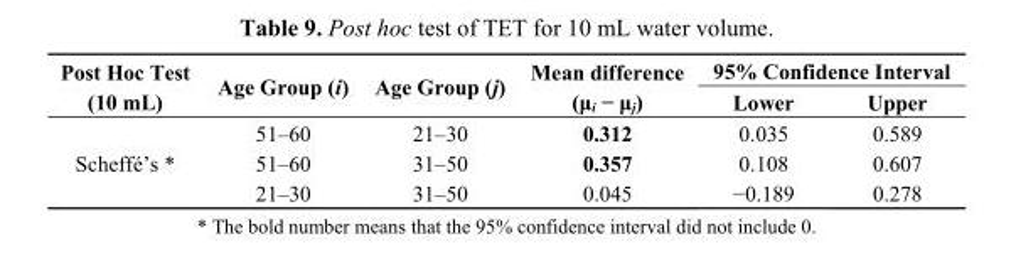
<table><thead><tr><td rowspan="2">Post Hoc Test (10 mL)</td><td rowspan="2">Age Group (i)</td><td rowspan="2">Age Group (j)</td><td rowspan="2">Mean difference (μ<sub>i</sub> − μ<sub>j</sub>)</td><td colspan="2">95% Confidence Interval</td></tr><tr><td>Lower</td><td>Upper</td></tr></thead><tbody><tr><td rowspan="3">Scheffé’s *</td><td>51–60</td><td>21–30</td><td>0.312</td><td>0.035</td><td>0.589</td></tr><tr><td>51–60</td><td>31–50</td><td>0.357</td><td>0.108</td><td>0.607</td></tr><tr><td>21–30</td><td>31–50</td><td>0.045</td><td>−0.189</td><td>0.278</td></tr></tbody></table>